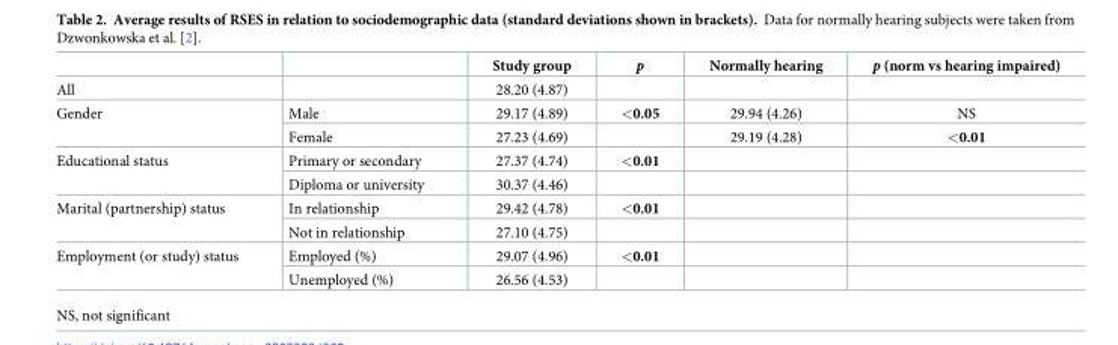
<table><thead><tr><td></td><td></td><td>Study group</td><td>p</td><td>Normally hearing</td><td>p (norm vs hearing impaired)</td></tr></thead><tbody><tr><td>All</td><td></td><td>28.20 (4.87)</td><td></td><td></td><td></td></tr><tr><td rowspan="2">Gender</td><td>Male</td><td>29.17 (4.89)</td><td>&lt;0.05</td><td>29.94 (4.26)</td><td>NS</td></tr><tr><td>Female</td><td>27.23 (4.69)</td><td></td><td>29.19 (4.28)</td><td>&lt;0.01</td></tr><tr><td rowspan="2">Educational status</td><td>Primary or secondary</td><td>27.37 (4.74)</td><td>&lt;0.01</td><td></td><td></td></tr><tr><td>Diploma or university</td><td>30.37 (4.46)</td><td></td><td></td><td></td></tr><tr><td rowspan="2">Marital (partnership) status</td><td>In relationship</td><td>29.42 (4.78)</td><td>&lt;0.01</td><td></td><td></td></tr><tr><td>Not in relationship</td><td>27.10 (4.75)</td><td></td><td></td><td></td></tr><tr><td rowspan="2">Employment (or study) status</td><td>Employed (%)</td><td>29.07 (4.96)</td><td>&lt;0.01</td><td></td><td></td></tr><tr><td>Unemployed (%)</td><td>26.56 (4.53)</td><td></td><td></td><td></td></tr></tbody></table>